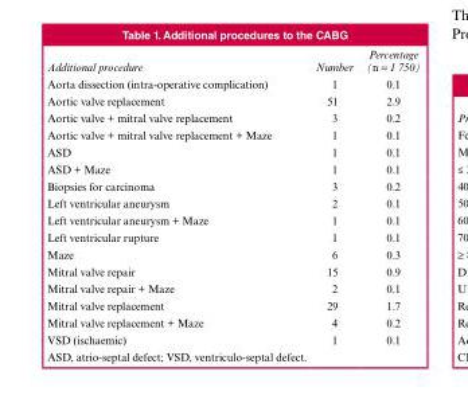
<table><thead><tr><td>Additional procedure</td><td>Number</td><td>Percentage (n = 1 750)</td></tr></thead><tbody><tr><td>Aorta dissection (intra-operative complication)</td><td>1</td><td>0.1</td></tr><tr><td>Aortic valve replacement</td><td>51</td><td>2.9</td></tr><tr><td>Aortic valve + mitral valve replacement</td><td>3</td><td>0.2</td></tr><tr><td>Aortic valve + mitral valve replacement + Maze</td><td>1</td><td>0.1</td></tr><tr><td>ASD</td><td>1</td><td>0.1</td></tr><tr><td>ASD + Maze</td><td>1</td><td>0.1</td></tr><tr><td>Biopsies for carcinoma</td><td>3</td><td>0.2</td></tr><tr><td>Left ventricular aneurysm</td><td>2</td><td>0.1</td></tr><tr><td>Left ventricular aneurysm + Maze</td><td>1</td><td>0.1</td></tr><tr><td>Left ventricular rupture</td><td>1</td><td>0.1</td></tr><tr><td>Maze</td><td>6</td><td>0.3</td></tr><tr><td>Mitral valve repair</td><td>15</td><td>0.9</td></tr><tr><td>Mitral valve repair + Maze</td><td>2</td><td>0.1</td></tr><tr><td>Mitral valve replacement</td><td>29</td><td>1.7</td></tr><tr><td>Mitral valve replacement + Maze</td><td>4</td><td>0.2</td></tr><tr><td>VSD (ischaemic)</td><td>1</td><td>0.1</td></tr></tbody></table>